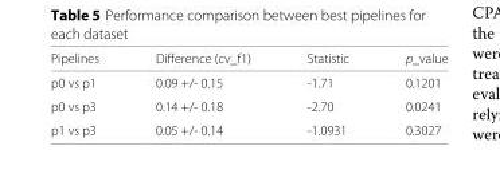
<table><thead><tr><td>Pipelines</td><td>Difference (cv_f1)</td><td>Statistic</td><td>p_value</td></tr></thead><tbody><tr><td>p0 vs p1</td><td>0.09 +/- 0.15</td><td>-1.71</td><td>0.1201</td></tr><tr><td>p0 vs p3</td><td>0.14 +/- 0.18</td><td>-2.70</td><td>0.0241</td></tr><tr><td>p1 vs p3</td><td>0.05 +/- 0.14</td><td>-1.0931</td><td>0.3027</td></tr></tbody></table>